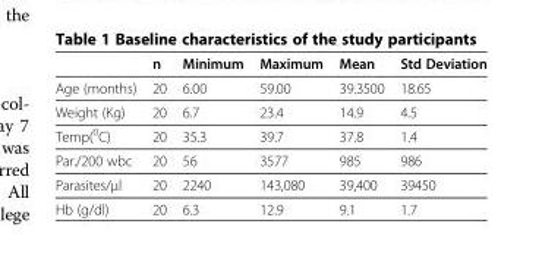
<table><thead><tr><td></td><td>n</td><td>Minimum</td><td>Maximum</td><td>Mean</td><td>Std Deviation</td></tr></thead><tbody><tr><td>Age (months)</td><td>20</td><td>6.00</td><td>59.00</td><td>39.3500</td><td>18.65</td></tr><tr><td>Weight (Kg)</td><td>20</td><td>6.7</td><td>23.4</td><td>14.9</td><td>4.5</td></tr><tr><td>Temp(<sup>0</sup>C)</td><td>20</td><td>35.3</td><td>39.7</td><td>37.8</td><td>1.4</td></tr><tr><td>Par./200 wbc</td><td>20</td><td>56</td><td>3577</td><td>985</td><td>986</td></tr><tr><td>Parasites/μl</td><td>20</td><td>2240</td><td>143,080</td><td>39,400</td><td>39450</td></tr><tr><td>Hb (g/dl)</td><td>20</td><td>6.3</td><td>12.9</td><td>9.1</td><td>1.7</td></tr></tbody></table>